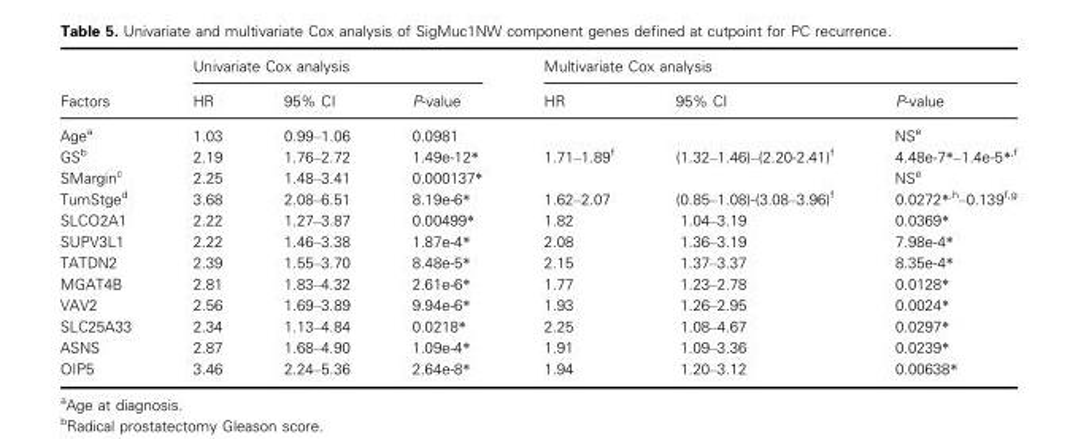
<table><thead><tr><td rowspan="2">Factors</td><td colspan="3">Univariate Cox analysis</td><td colspan="3">Multivariate Cox analysis</td></tr><tr><td>HR</td><td>95% CI</td><td>P-value</td><td>HR</td><td>95% CI</td><td>P-value</td></tr></thead><tbody><tr><td>Age<sup>a</sup></td><td>1.03</td><td>0.99–1.06</td><td>0.0981</td><td></td><td></td><td>NS<sup>e</sup></td></tr><tr><td>GS<sup>b</sup></td><td>2.19</td><td>1.76–2.72</td><td>1.49e-12*</td><td>1.71–1.89<sup>f</sup></td><td>(1.32–1.46)–(2.20-2.41)<sup>f</sup></td><td>4.48e-7*–1.4e-5*,<sup>f</sup></td></tr><tr><td>SMargin<sup>c</sup></td><td>2.25</td><td>1.48–3.41</td><td>0.000137*</td><td></td><td></td><td>NS<sup>e</sup></td></tr><tr><td>TumStge<sup>d</sup></td><td>3.68</td><td>2.08–6.51</td><td>8.19e-6*</td><td>1.62–2.07</td><td>(0.85–1.08)-(3.08–3.96)<sup>f</sup></td><td>0.0272*,<sup>h</sup>–0.139<sup>f</sup>,<sup>g</sup></td></tr><tr><td>SLCO2A1</td><td>2.22</td><td>1.27–3.87</td><td>0.00499*</td><td>1.82</td><td>1.04–3.19</td><td>0.0369*</td></tr><tr><td>SUPV3L1</td><td>2.22</td><td>1.46–3.38</td><td>1.87e-4*</td><td>2.08</td><td>1.36–3.19</td><td>7.98e-4*</td></tr><tr><td>TATDN2</td><td>2.39</td><td>1.55–3.70</td><td>8.48e-5*</td><td>2.15</td><td>1.37–3.37</td><td>8.35e-4*</td></tr><tr><td>MGAT4B</td><td>2.81</td><td>1.83–4.32</td><td>2.61e-6*</td><td>1.77</td><td>1.23–2.78</td><td>0.0128*</td></tr><tr><td>VAV2</td><td>2.56</td><td>1.69–3.89</td><td>9.94e-6*</td><td>1.93</td><td>1.26–2.95</td><td>0.0024*</td></tr><tr><td>SLC25A33</td><td>2.34</td><td>1.13–4.84</td><td>0.0218*</td><td>2.25</td><td>1.08–4.67</td><td>0.0297*</td></tr><tr><td>ASNS</td><td>2.87</td><td>1.68–4.90</td><td>1.09e-4*</td><td>1.91</td><td>1.09–3.36</td><td>0.0239*</td></tr><tr><td>OIP5</td><td>3.46</td><td>2.24–5.36</td><td>2.64e-8*</td><td>1.94</td><td>1.20–3.12</td><td>0.00638*</td></tr></tbody></table>